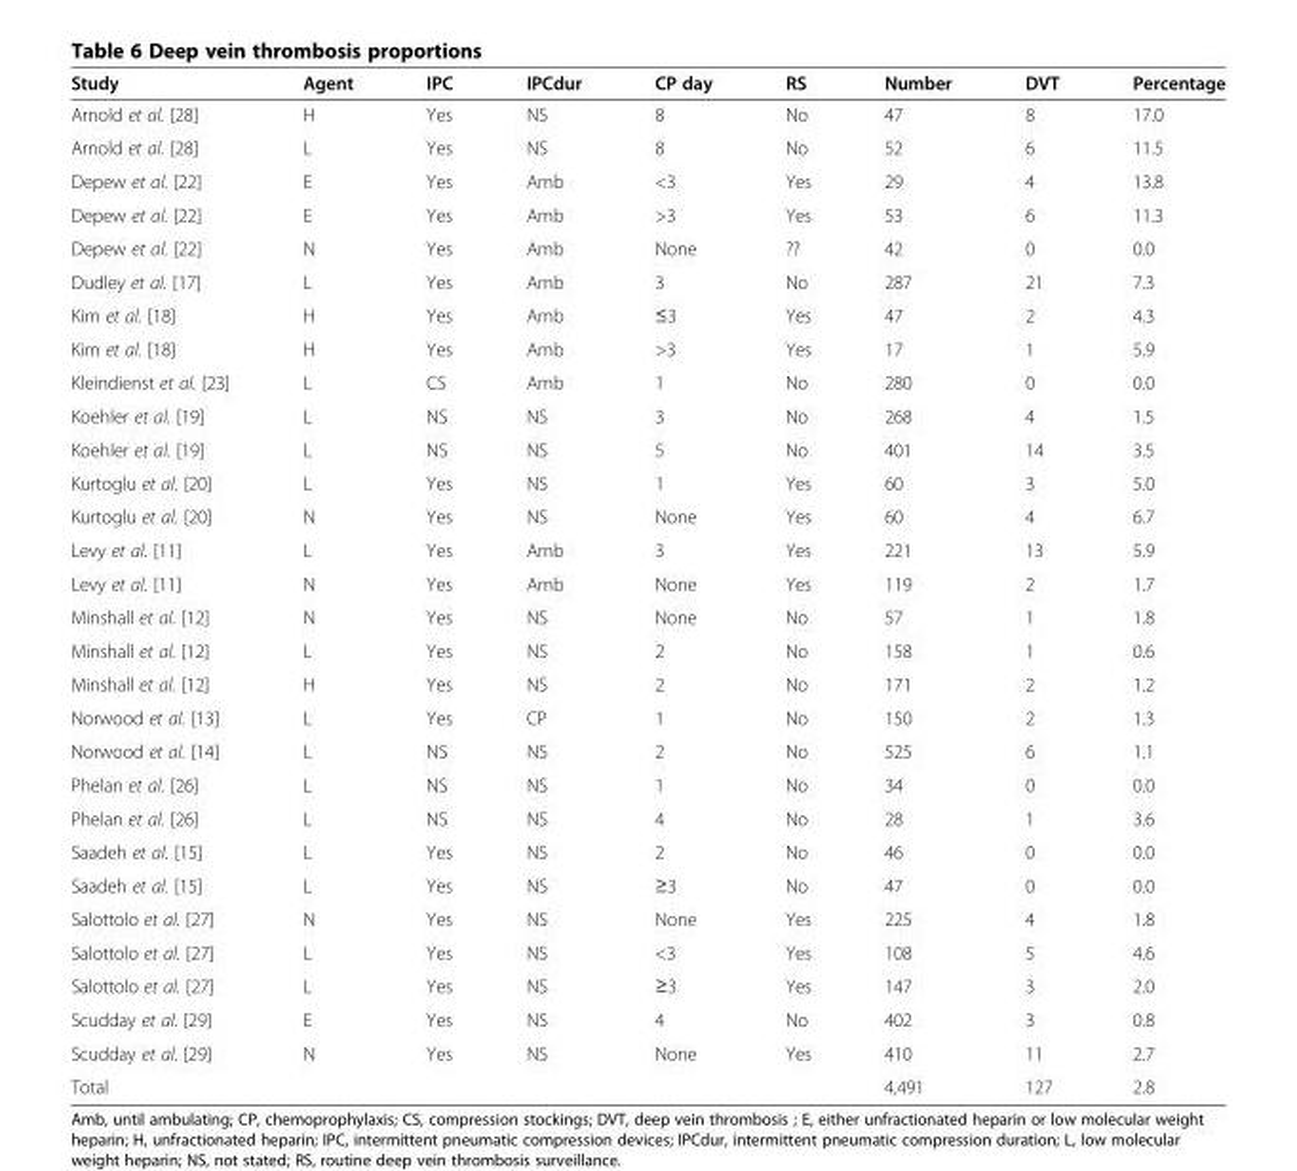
<table><thead><tr><td>Study</td><td>Agent</td><td>IPC</td><td>IPCdur</td><td>CP day</td><td>RS</td><td>Number</td><td>DVT</td><td>Percentage</td></tr></thead><tbody><tr><td>Arnold et al. [28]</td><td>H</td><td>Yes</td><td>NS</td><td>8</td><td>No</td><td>47</td><td>8</td><td>17.0</td></tr><tr><td>Arnold et al. [28]</td><td>L</td><td>Yes</td><td>NS</td><td>8</td><td>No</td><td>52</td><td>6</td><td>11.5</td></tr><tr><td>Depew et al. [22]</td><td>E</td><td>Yes</td><td>Amb</td><td>&lt;3</td><td>Yes</td><td>29</td><td>4</td><td>13.8</td></tr><tr><td>Depew et al. [22]</td><td>E</td><td>Yes</td><td>Amb</td><td>&gt;3</td><td>Yes</td><td>53</td><td>6</td><td>11.3</td></tr><tr><td>Depew et al. [22]</td><td>N</td><td>Yes</td><td>Amb</td><td>None</td><td>??</td><td>42</td><td>0</td><td>0.0</td></tr><tr><td>Dudley et al. [17]</td><td>L</td><td>Yes</td><td>Amb</td><td>3</td><td>No</td><td>287</td><td>21</td><td>7.3</td></tr><tr><td>Kim et al. [18]</td><td>H</td><td>Yes</td><td>Amb</td><td>≤3</td><td>Yes</td><td>47</td><td>2</td><td>4.3</td></tr><tr><td>Kim et al. [18]</td><td>H</td><td>Yes</td><td>Amb</td><td>&gt;3</td><td>Yes</td><td>17</td><td>1</td><td>5.9</td></tr><tr><td>Kleindienst et al. [23]</td><td>L</td><td>CS</td><td>Amb</td><td>1</td><td>No</td><td>280</td><td>0</td><td>0.0</td></tr><tr><td>Koehler et al. [19]</td><td>L</td><td>NS</td><td>NS</td><td>3</td><td>No</td><td>268</td><td>4</td><td>1.5</td></tr><tr><td>Koehler et al. [19]</td><td>L</td><td>NS</td><td>NS</td><td>5</td><td>No</td><td>401</td><td>14</td><td>3.5</td></tr><tr><td>Kurtoglu et al. [20]</td><td>L</td><td>Yes</td><td>NS</td><td>1</td><td>Yes</td><td>60</td><td>3</td><td>5.0</td></tr><tr><td>Kurtoglu et al. [20]</td><td>N</td><td>Yes</td><td>NS</td><td>None</td><td>Yes</td><td>60</td><td>4</td><td>6.7</td></tr><tr><td>Levy et al. [11]</td><td>L</td><td>Yes</td><td>Amb</td><td>3</td><td>Yes</td><td>221</td><td>13</td><td>5.9</td></tr><tr><td>Levy et al. [11]</td><td>N</td><td>Yes</td><td>Amb</td><td>None</td><td>Yes</td><td>119</td><td>2</td><td>1.7</td></tr><tr><td>Minshall et al. [12]</td><td>N</td><td>Yes</td><td>NS</td><td>None</td><td>No</td><td>57</td><td>1</td><td>1.8</td></tr><tr><td>Minshall et al. [12]</td><td>L</td><td>Yes</td><td>NS</td><td>2</td><td>No</td><td>158</td><td>1</td><td>0.6</td></tr><tr><td>Minshall et al. [12]</td><td>H</td><td>Yes</td><td>NS</td><td>2</td><td>No</td><td>171</td><td>2</td><td>1.2</td></tr><tr><td>Norwood et al. [13]</td><td>L</td><td>Yes</td><td>CP</td><td>1</td><td>No</td><td>150</td><td>2</td><td>1.3</td></tr><tr><td>Norwood et al. [14]</td><td>L</td><td>NS</td><td>NS</td><td>2</td><td>No</td><td>525</td><td>6</td><td>1.1</td></tr><tr><td>Phelan et al. [26]</td><td>L</td><td>NS</td><td>NS</td><td>1</td><td>No</td><td>34</td><td>0</td><td>0.0</td></tr><tr><td>Phelan et al. [26]</td><td>L</td><td>NS</td><td>NS</td><td>4</td><td>No</td><td>28</td><td>1</td><td>3.6</td></tr><tr><td>Saadeh et al. [15]</td><td>L</td><td>Yes</td><td>NS</td><td>2</td><td>No</td><td>46</td><td>0</td><td>0.0</td></tr><tr><td>Saadeh et al. [15]</td><td>L</td><td>Yes</td><td>NS</td><td>≥3</td><td>No</td><td>47</td><td>0</td><td>0.0</td></tr><tr><td>Salottolo et al. [27]</td><td>N</td><td>Yes</td><td>NS</td><td>None</td><td>Yes</td><td>225</td><td>4</td><td>1.8</td></tr><tr><td>Salottolo et al. [27]</td><td>L</td><td>Yes</td><td>NS</td><td>&lt;3</td><td>Yes</td><td>108</td><td>5</td><td>4.6</td></tr><tr><td>Salottolo et al. [27]</td><td>L</td><td>Yes</td><td>NS</td><td>≥3</td><td>Yes</td><td>147</td><td>3</td><td>2.0</td></tr><tr><td>Scudday et al. [29]</td><td>E</td><td>Yes</td><td>NS</td><td>4</td><td>No</td><td>402</td><td>3</td><td>0.8</td></tr><tr><td>Scudday et al. [29]</td><td>N</td><td>Yes</td><td>NS</td><td>None</td><td>Yes</td><td>410</td><td>11</td><td>2.7</td></tr><tr><td>Total</td><td></td><td></td><td></td><td></td><td></td><td>4,491</td><td>127</td><td>2.8</td></tr></tbody></table>